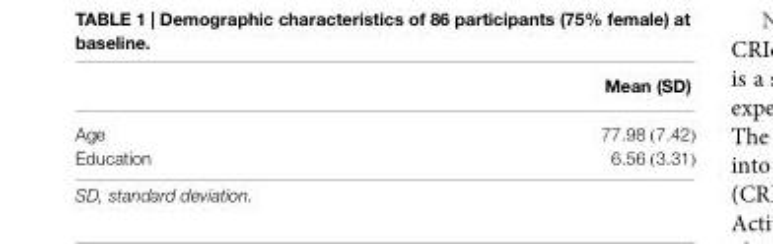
<table><thead><tr><td></td><td>Mean (SD)</td></tr></thead><tbody><tr><td>Age</td><td>77.98 (7.42)</td></tr><tr><td>Education</td><td>6.56 (3.31)</td></tr></tbody></table>